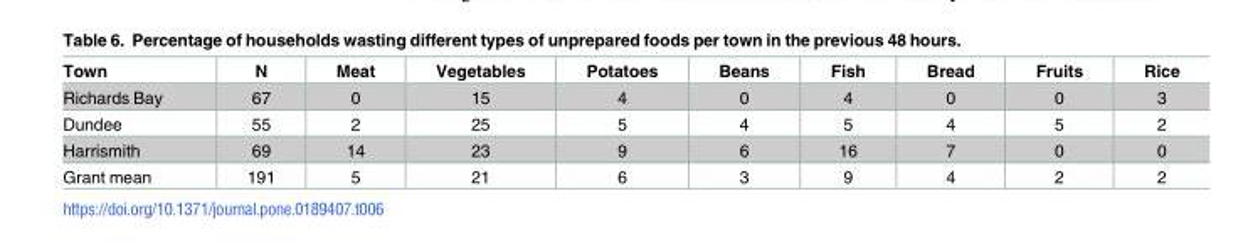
<table><thead><tr><td>Town</td><td>N</td><td>Meat</td><td>Vegetables</td><td>Potatoes</td><td>Beans</td><td>Fish</td><td>Bread</td><td>Fruits</td><td>Rice</td></tr></thead><tbody><tr><td>Richards Bay</td><td>67</td><td>0</td><td>15</td><td>4</td><td>0</td><td>4</td><td>0</td><td>0</td><td>3</td></tr><tr><td>Dundee</td><td>55</td><td>2</td><td>25</td><td>5</td><td>4</td><td>5</td><td>4</td><td>5</td><td>2</td></tr><tr><td>Harrismith</td><td>69</td><td>14</td><td>23</td><td>9</td><td>6</td><td>16</td><td>7</td><td>0</td><td>0</td></tr><tr><td>Grant mean</td><td>191</td><td>5</td><td>21</td><td>6</td><td>3</td><td>9</td><td>4</td><td>2</td><td>2</td></tr></tbody></table>